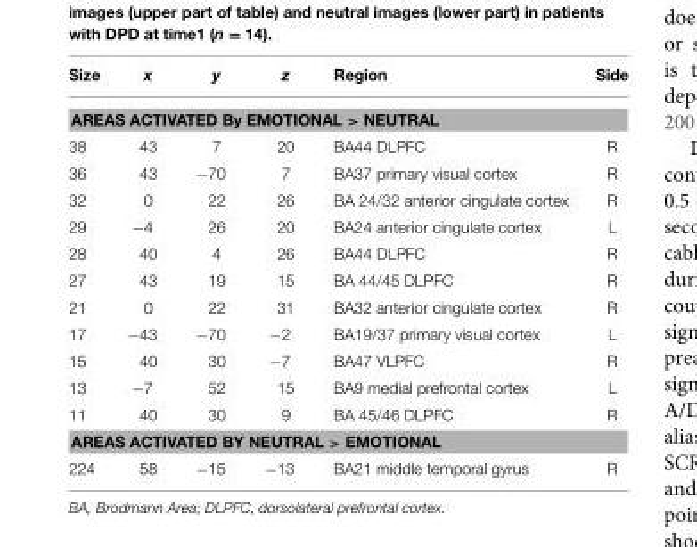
<table><thead><tr><td>Size</td><td>x</td><td>y</td><td>z</td><td>Region</td><td>Side</td></tr></thead><tbody><tr><td colspan="6">AREAS ACTIVATED By EMOTIONAL &gt; NEUTRAL</td></tr><tr><td>38</td><td>43</td><td>7</td><td>20</td><td>BA44 DLPFC</td><td>R</td></tr><tr><td>36</td><td>43</td><td>−70</td><td>7</td><td>BA37 primary visual cortex</td><td>R</td></tr><tr><td>32</td><td>0</td><td>22</td><td>26</td><td>BA 24/32 anterior cingulate cortex</td><td>R</td></tr><tr><td>29</td><td>−4</td><td>26</td><td>20</td><td>BA24 anterior cingulate cortex</td><td>L</td></tr><tr><td>28</td><td>40</td><td>4</td><td>26</td><td>BA44 DLPFC</td><td>R</td></tr><tr><td>27</td><td>43</td><td>19</td><td>15</td><td>BA 44/45 DLPFC</td><td>R</td></tr><tr><td>21</td><td>0</td><td>22</td><td>31</td><td>BA32 anterior cingulate cortex</td><td>R</td></tr><tr><td>17</td><td>−43</td><td>−70</td><td>−2</td><td>BA19/37 primary visual cortex</td><td>L</td></tr><tr><td>15</td><td>40</td><td>30</td><td>−7</td><td>BA47 VLPFC</td><td>R</td></tr><tr><td>13</td><td>−7</td><td>52</td><td>15</td><td>BA9 medial prefrontal cortex</td><td>L</td></tr><tr><td>11</td><td>40</td><td>30</td><td>9</td><td>BA 45/46 DLPFC</td><td>R</td></tr><tr><td colspan="6">AREAS ACTIVATED BY NEUTRAL &gt; EMOTIONAL</td></tr><tr><td>224</td><td>58</td><td>−15</td><td>−13</td><td>BA21 middle temporal gyrus</td><td>R</td></tr></tbody></table>